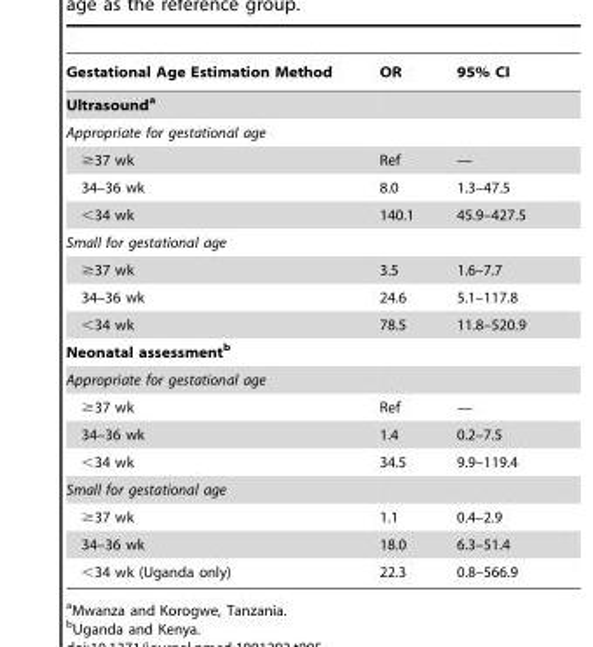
<table><thead><tr><td>Gestational Age Estimation Method</td><td>OR</td><td>95% CI</td></tr></thead><tbody><tr><td colspan="3">Ultrasounda</td></tr><tr><td colspan="3">Appropriate for gestational age</td></tr><tr><td>≥37 wk</td><td>Ref</td><td>—</td></tr><tr><td>34–36 wk</td><td>8.0</td><td>1.3–47.5</td></tr><tr><td>&lt;34 wk</td><td>140.1</td><td>45.9–427.5</td></tr><tr><td colspan="3">Small for gestational age</td></tr><tr><td>≥37 wk</td><td>3.5</td><td>1.6–7.7</td></tr><tr><td>34–36 wk</td><td>24.6</td><td>5.1–117.8</td></tr><tr><td>&lt;34 wk</td><td>78.5</td><td>11.8–520.9</td></tr><tr><td colspan="3">Neonatal assessmentb</td></tr><tr><td colspan="3">Appropriate for gestational age</td></tr><tr><td>≥37 wk</td><td>Ref</td><td>—</td></tr><tr><td>34–36 wk</td><td>1.4</td><td>0.2–7.5</td></tr><tr><td>&lt;34 wk</td><td>34.5</td><td>9.9–119.4</td></tr><tr><td colspan="3">Small for gestational age</td></tr><tr><td>≥37 wk</td><td>1.1</td><td>0.4–2.9</td></tr><tr><td>34–36 wk</td><td>18.0</td><td>6.3–51.4</td></tr><tr><td>&lt;34 wk (Uganda only)</td><td>22.3</td><td>0.8–566.9</td></tr></tbody></table>